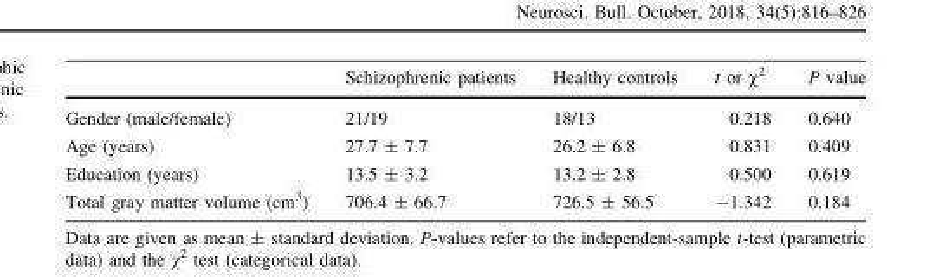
<table><thead><tr><td></td><td>Schizophrenic patients</td><td>Healthy controls</td><td>t or χ<sup>2</sup></td><td>P value</td></tr></thead><tbody><tr><td>Gender (male/female)</td><td>21/19</td><td>18/13</td><td>0.218</td><td>0.640</td></tr><tr><td>Age (years)</td><td>27.7 ± 7.7</td><td>26.2 ± 6.8</td><td>0.831</td><td>0.409</td></tr><tr><td>Education (years)</td><td>13.5 ± 3.2</td><td>13.2 ± 2.8</td><td>0.500</td><td>0.619</td></tr><tr><td>Total gray matter volume (cm<sup>3</sup>)</td><td>706.4 ± 66.7</td><td>726.5 ± 56.5</td><td>-1.342</td><td>0.184</td></tr></tbody></table>